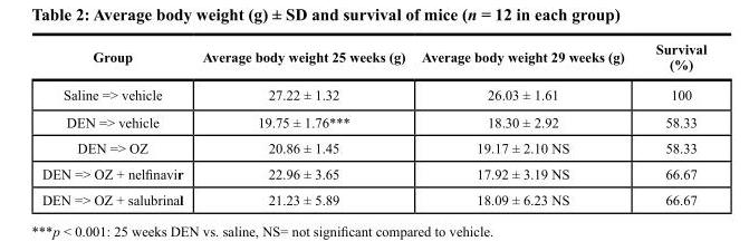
<table><thead><tr><td>Group</td><td>Average body weight 25 weeks (g)</td><td>Average body weight 29 weeks (g)</td><td>survival (%)</td></tr></thead><tbody><tr><td>Saline =&gt; vehicle</td><td>27.22 ± 1.32</td><td>26.03 ± 1.61</td><td>100</td></tr><tr><td>DEN =&gt; vehicle</td><td>19.75 ± 1.76***</td><td>18.30 ± 2.92</td><td>58.33</td></tr><tr><td>DEN =&gt; OZ</td><td>20.86 ± 1.45</td><td>19.17 ± 2.10 NS</td><td>58.33</td></tr><tr><td>DEN =&gt; OZ + nelfinavir</td><td>22.96 ± 3.65</td><td>17.92 ± 3.19 NS</td><td>66.67</td></tr><tr><td>DEN =&gt; OZ + salubrinal</td><td>21.23 ± 5.89</td><td>18.09 ± 6.23 NS</td><td>66.67</td></tr></tbody></table>